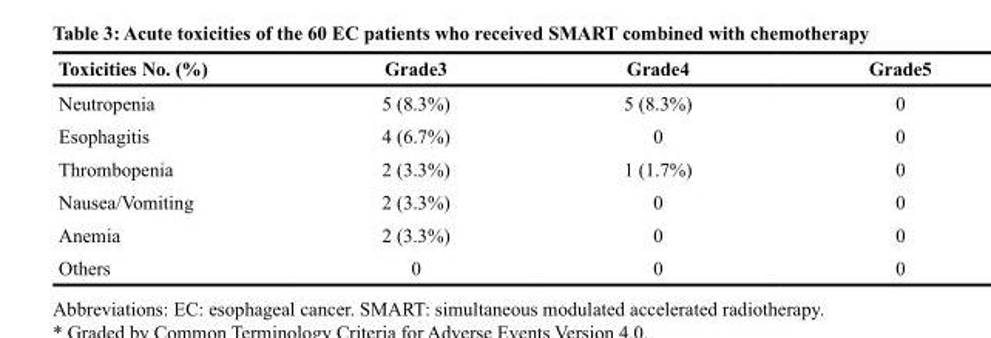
<table><thead><tr><td>Toxicities No. (%)</td><td>Grade3</td><td>Grade4</td><td>Grade5</td></tr></thead><tbody><tr><td>Neutropenia</td><td>5 (8.3%)</td><td>5 (8.3%)</td><td>0</td></tr><tr><td>Esophagitis</td><td>4 (6.7%)</td><td>0</td><td>0</td></tr><tr><td>Thrombopenia</td><td>2 (3.3%)</td><td>1 (1.7%)</td><td>0</td></tr><tr><td>Nausea/Vomiting</td><td>2 (3.3%)</td><td>0</td><td>0</td></tr><tr><td>Anemia</td><td>2 (3.3%)</td><td>0</td><td>0</td></tr><tr><td>Others</td><td>0</td><td>0</td><td>0</td></tr></tbody></table>